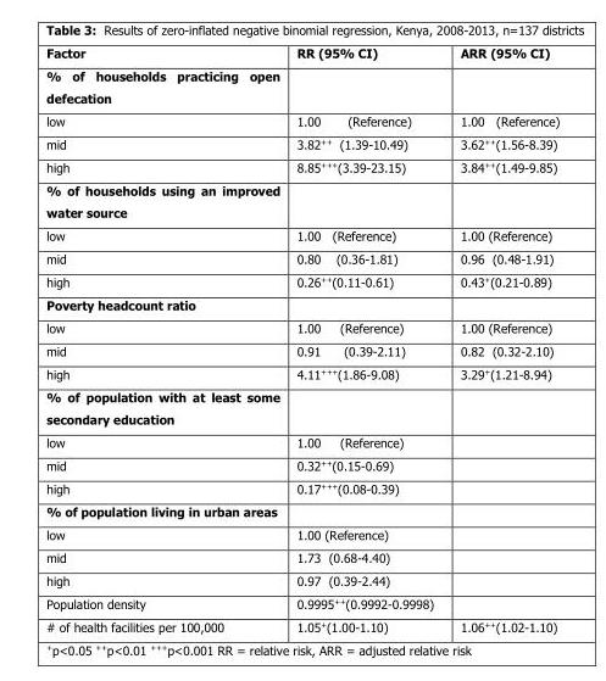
<table><thead><tr><td>Factor</td><td>RR (95% CI)</td><td>ARR (95% CI)</td></tr></thead><tbody><tr><td colspan="3">% of households practicing open defecation</td></tr><tr><td>low</td><td>1.00 (Reference)</td><td>1.00 (Reference)</td></tr><tr><td>mid</td><td>3.82<sup>++</sup> (1.39-10.49)</td><td>3.62<sup>++</sup>(1.56-8.39)</td></tr><tr><td>high</td><td>8.85<sup>+++</sup>(3.39-23.15)</td><td>3.84<sup>++</sup>(1.49-9.85)</td></tr><tr><td colspan="3">% of households using an improved water source</td></tr><tr><td>low</td><td>1.00 (Reference)</td><td>1.00 (Reference)</td></tr><tr><td>mid</td><td>0.80 (0.36-1.81)</td><td>0.96 (0.48-1.91)</td></tr><tr><td>high</td><td>0.26<sup>++</sup>(0.11-0.61)</td><td>0.43<sup>+</sup>(0.21-0.89)</td></tr><tr><td colspan="3">Poverty headcount ratio</td></tr><tr><td>low</td><td>1.00 (Reference)</td><td>1.00 (Reference)</td></tr><tr><td>mid</td><td>0.91 (0.39-2.11)</td><td>0.82 (0.32-2.10)</td></tr><tr><td>high</td><td>4.11<sup>+++</sup>(1.86-9.08)</td><td>3.29<sup>+</sup>(1.21-8.94)</td></tr><tr><td colspan="3">% of population with at least some secondary education</td></tr><tr><td>low</td><td>1.00 (Reference)</td><td></td></tr><tr><td>mid</td><td>0.32<sup>++</sup>(0.15-0.69)</td><td></td></tr><tr><td>high</td><td>0.17<sup>+++</sup>(0.08-0.39)</td><td></td></tr><tr><td colspan="3">% of population living in urban areas</td></tr><tr><td>low</td><td>1.00 (Reference)</td><td></td></tr><tr><td>mid</td><td>1.73 (0.68-4.40)</td><td></td></tr><tr><td>high</td><td>0.97 (0.39-2.44)</td><td></td></tr><tr><td>Population density</td><td>0.9995<sup>++</sup>(0.9992-0.9998)</td><td></td></tr><tr><td># of health facilities per 100,000</td><td>1.05<sup>+</sup>(1.00-1.10)</td><td>1.06<sup>++</sup>(1.02-1.10)</td></tr></tbody></table>